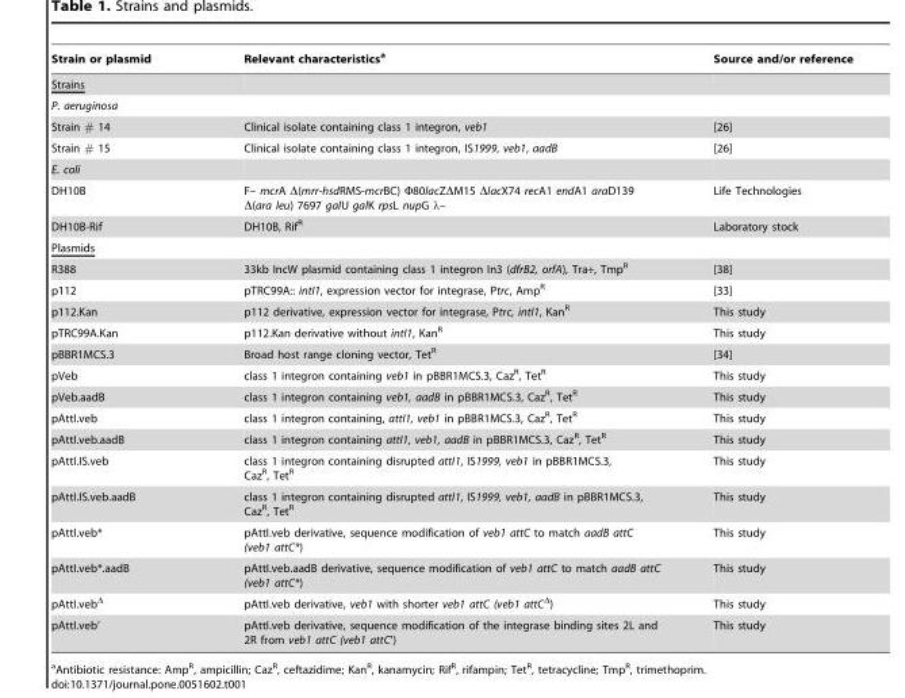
<table><thead><tr><td>Strain or plasmid</td><td>Relevant characteristics<sup>a</sup></td><td>Source and/or reference</td></tr></thead><tbody><tr><td colspan="3">Strains</td></tr><tr><td colspan="3">P. aeruginosa</td></tr><tr><td>Strain # 14</td><td>Clinical isolate containing class 1 integron, veb1</td><td>[26]</td></tr><tr><td>Strain # 15</td><td>Clinical isolate containing class 1 integron, IS1999, veb1, aadB</td><td>[26]</td></tr><tr><td colspan="3">E. coli</td></tr><tr><td>DH10B</td><td>F– mcrA Δ(mrr-hsdRMS-mcrBC) Φ80lacZΔM15 ΔlacX74 recA1 endA1 araD139 Δ(ara leu) 7697 galU galK rpsL nupG λ–</td><td>Life Technologies</td></tr><tr><td>DH10B-Rif</td><td>DH10B, Rif<sup>R</sup></td><td>Laboratory stock</td></tr><tr><td colspan="3">Plasmids</td></tr><tr><td>R388</td><td>33kb IncW plasmid containing class 1 integron In3 (dfrB2, orfA), Tra+, Tmp<sup>R</sup></td><td>[38]</td></tr><tr><td>p112</td><td>pTRC99A:: intI1, expression vector for integrase, Ptrc, Amp<sup>R</sup></td><td>[33]</td></tr><tr><td>p112.Kan</td><td>p112 derivative, expression vector for integrase, Ptrc, intI1, Kan<sup>R</sup></td><td>This study</td></tr><tr><td>pTRC99A.Kan</td><td>p112.Kan derivative without intI1, Kan<sup>R</sup></td><td>This study</td></tr><tr><td>pBBR1MCS.3</td><td>Broad host range cloning vector, Tet<sup>R</sup></td><td>[34]</td></tr><tr><td>pVeb</td><td>class 1 integron containing veb1 in pBBR1MCS.3, Caz<sup>R</sup>, Tet<sup>R</sup></td><td>This study</td></tr><tr><td>pVeb.aadB</td><td>class 1 integron containing veb1, aadB in pBBR1MCS.3, Caz<sup>R</sup>, Tet<sup>R</sup></td><td>This study</td></tr><tr><td>pAttI.veb</td><td>class 1 integron containing, attI1, veb1 in pBBR1MCS.3, Caz<sup>R</sup>, Tet<sup>R</sup></td><td>This study</td></tr><tr><td>pAttI.veb.aadB</td><td>class 1 integron containing attI1, veb1, aadB in pBBR1MCS.3, Caz<sup>R</sup>, Tet<sup>R</sup></td><td>This study</td></tr><tr><td>pAttI.IS.veb</td><td>class 1 integron containing disrupted attI1, IS1999, veb1 in pBBR1MCS.3, Caz<sup>R</sup>, Tet<sup>R</sup></td><td>This study</td></tr><tr><td>pAttI.IS.veb.aadB</td><td>class 1 integron containing disrupted attI1, IS1999, veb1, aadB in pBBR1MCS.3, Caz<sup>R</sup>, Tet<sup>R</sup></td><td>This study</td></tr><tr><td>pAttI.veb*</td><td>pAttI.veb derivative, sequence modification of veb1 attC to match aadB attC (veb1 attC*)</td><td>This study</td></tr><tr><td>pAttI.veb*.aadB</td><td>pAttI.veb.aadB derivative, sequence modification of veb1 attC to match aadB attC (veb1 attC*)</td><td>This study</td></tr><tr><td>pAttI.veb<sup>Δ</sup></td><td>pAttI.veb derivative, veb1 with shorter veb1 attC (veb1 attC<sup>Δ</sup>)</td><td>This study</td></tr><tr><td>pAttI.veb’</td><td>pAttI.veb derivative, sequence modification of the integrase binding sites 2L and 2R from veb1 attC (veb1 attC’)</td><td>This study</td></tr></tbody></table>